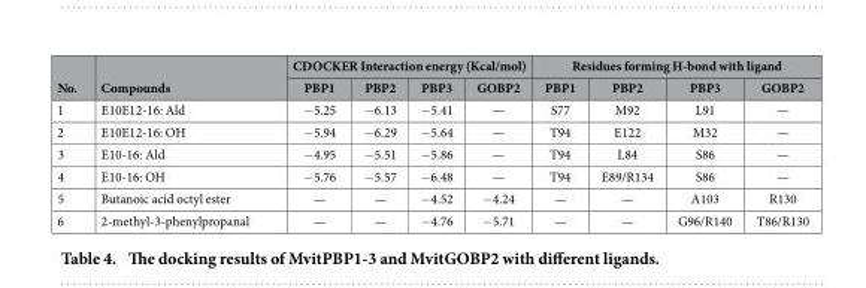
<table><thead><tr><td rowspan="2">No.</td><td rowspan="2">Compounds</td><td colspan="4">CDOCKER Interaction energy (Kcal/mol)</td><td colspan="4">Residues forming H-bond with ligand</td></tr><tr><td>PBP1</td><td>PBP2</td><td>PBP3</td><td>GOBP2</td><td>PBP1</td><td>PBP2</td><td>PBP3</td><td>GOBP2</td></tr></thead><tbody><tr><td>1</td><td>E10E12-16: Ald</td><td>− 5.25</td><td>− 6.13</td><td>− 5.41</td><td>—</td><td>S77</td><td>M92</td><td>L91</td><td>—</td></tr><tr><td>2</td><td>E10E12-16: OH</td><td>− 5.94</td><td>− 6.29</td><td>− 5.64</td><td>—</td><td>T94</td><td>E122</td><td>M32</td><td>—</td></tr><tr><td>3</td><td>E10-16: Ald</td><td>− 4.95</td><td>− 5.51</td><td>− 5.86</td><td>—</td><td>T94</td><td>L84</td><td>S86</td><td>—</td></tr><tr><td>4</td><td>E10-16: OH</td><td>− 5.76</td><td>− 5.57</td><td>− 6.48</td><td>—</td><td>T94</td><td>E89/R134</td><td>S86</td><td>—</td></tr><tr><td>5</td><td>Butanoic acid octyl ester</td><td>—</td><td>—</td><td>− 4.52</td><td>− 4.24</td><td>—</td><td>—</td><td>A103</td><td>R130</td></tr><tr><td>6</td><td>2-methyl-3-phenylpropanal</td><td>—</td><td>—</td><td>− 4.76</td><td>− 5.71</td><td>—</td><td>—</td><td>G96/R140</td><td>T86/R130</td></tr></tbody></table>